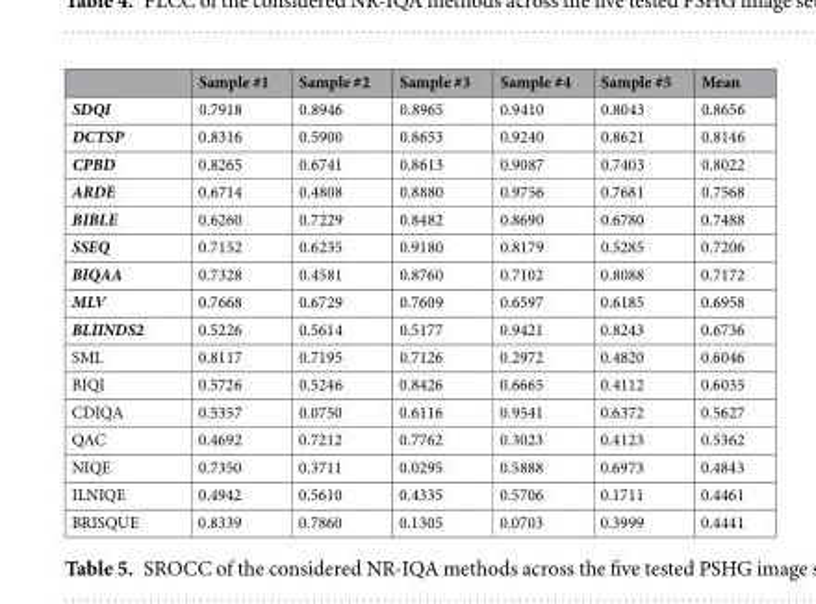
<table><thead><tr><td></td><td>Sample #1</td><td>Sample #2</td><td>Sample #3</td><td>Sample #4</td><td>Sample #5</td><td>Mean</td></tr></thead><tbody><tr><td>SDQI</td><td>0.7918</td><td>0.8946</td><td>0.8965</td><td>0.9410</td><td>0.8043</td><td>0.8656</td></tr><tr><td>DCTSP</td><td>0.8316</td><td>0.5900</td><td>0.8653</td><td>0.9240</td><td>0.8621</td><td>0.8146</td></tr><tr><td>CPBD</td><td>0.8265</td><td>0.6741</td><td>0.8613</td><td>0.9087</td><td>0.7403</td><td>0.8022</td></tr><tr><td>ARDE</td><td>0.6714</td><td>0.4808</td><td>0.8880</td><td>0.9756</td><td>0.7681</td><td>0.7568</td></tr><tr><td>BIBLE</td><td>0.6260</td><td>0.7229</td><td>0.8482</td><td>0.8690</td><td>0.6780</td><td>0.7488</td></tr><tr><td>SSEQ</td><td>0.7152</td><td>0.6235</td><td>0.9180</td><td>0.8179</td><td>0.5285</td><td>0.7206</td></tr><tr><td>BIQAA</td><td>0.7328</td><td>0.4581</td><td>0.8760</td><td>0.7102</td><td>0.8088</td><td>0.7172</td></tr><tr><td>MLV</td><td>0.7668</td><td>0.6729</td><td>0.7609</td><td>0.6597</td><td>0.6185</td><td>0.6958</td></tr><tr><td>BLIINDS2</td><td>0.5226</td><td>0.5614</td><td>0.5177</td><td>0.9421</td><td>0.8243</td><td>0.6736</td></tr><tr><td>SML</td><td>0.8117</td><td>0.7195</td><td>0.7126</td><td>0.2972</td><td>0.4820</td><td>0.6046</td></tr><tr><td>BIQI</td><td>0.5726</td><td>0.5246</td><td>0.8426</td><td>0.6665</td><td>0.4112</td><td>0.6035</td></tr><tr><td>CDIQA</td><td>0.5357</td><td>0.0750</td><td>0.6116</td><td>0.9541</td><td>0.6372</td><td>0.5627</td></tr><tr><td>QAC</td><td>0.4692</td><td>0.7212</td><td>0.7762</td><td>0.3023</td><td>0.4123</td><td>0.5362</td></tr><tr><td>NIQE</td><td>0.7350</td><td>0.3711</td><td>0.0295</td><td>0.5888</td><td>0.6973</td><td>0.4843</td></tr><tr><td>ILNIQE</td><td>0.4942</td><td>0.5610</td><td>0.4335</td><td>0.5706</td><td>0.1711</td><td>0.4461</td></tr><tr><td>BRISQUE</td><td>0.8339</td><td>0.7860</td><td>0.1305</td><td>0.0703</td><td>0.3999</td><td>0.4441</td></tr></tbody></table>